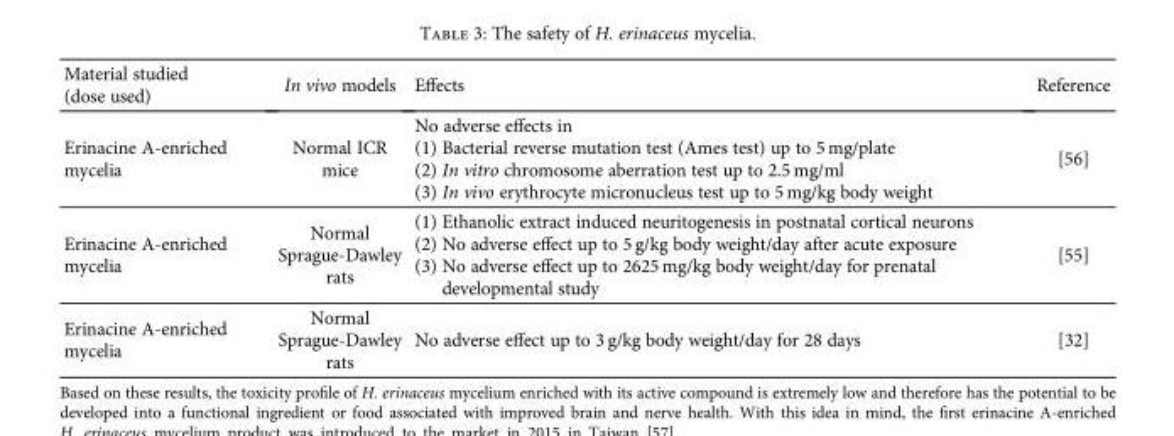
<table><thead><tr><td>Material studied (dose used)</td><td>In vivo models</td><td>Effects</td><td>Reference</td></tr></thead><tbody><tr><td>Erinacine A-enriched mycelia</td><td>Normal ICR mice</td><td>No adverse effects in (1) Bacterial reverse mutation test (Ames test) up to 5 mg/plate (2) In vitro chromosome aberration test up to 2.5 mg/ml (3) In vivo erythrocyte micronucleus test up to 5 mg/kg body weight</td><td>[56]</td></tr><tr><td>Erinacine A-enriched mycelia</td><td>Normal Sprague-Dawley rats</td><td>(1) Ethanolic extract induced neuritogenesis in postnatal cortical neurons (2) No adverse effect up to 5 g/kg body weight/day after acute exposure (3) No adverse effect up to 2625 mg/kg body weight/day for prenatal developmental study</td><td>[55]</td></tr><tr><td>Erinacine A-enriched mycelia</td><td>Normal Sprague-Dawley rats</td><td>No adverse effect up to 3 g/kg body weight/day for 28 days</td><td>[32]</td></tr></tbody></table>